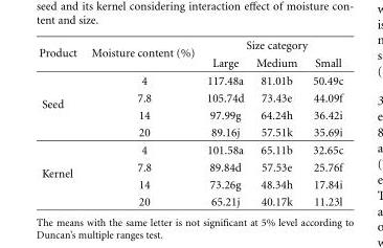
<table><thead><tr><td rowspan="2">Product</td><td rowspan="2">Moisture content (%)</td><td colspan="3">Size category</td></tr><tr><td>Large</td><td>Medium</td><td>Small</td></tr></thead><tbody><tr><td rowspan="4">Seed</td><td>4</td><td>117.48a</td><td>81.01b</td><td>50.49c</td></tr><tr><td>7.8</td><td>105.74d</td><td>73.43e</td><td>44.09f</td></tr><tr><td>14</td><td>97.99g</td><td>64.24h</td><td>36.42i</td></tr><tr><td>20</td><td>89.16j</td><td>57.51k</td><td>35.69i</td></tr><tr><td rowspan="4">Kernel</td><td>4</td><td>101.58a</td><td>65.11b</td><td>32.65c</td></tr><tr><td>7.8</td><td>89.84d</td><td>57.53e</td><td>25.76f</td></tr><tr><td>14</td><td>73.26g</td><td>48.34h</td><td>17.84i</td></tr><tr><td>20</td><td>65.21j</td><td>40.17k</td><td>11.23l</td></tr></tbody></table>